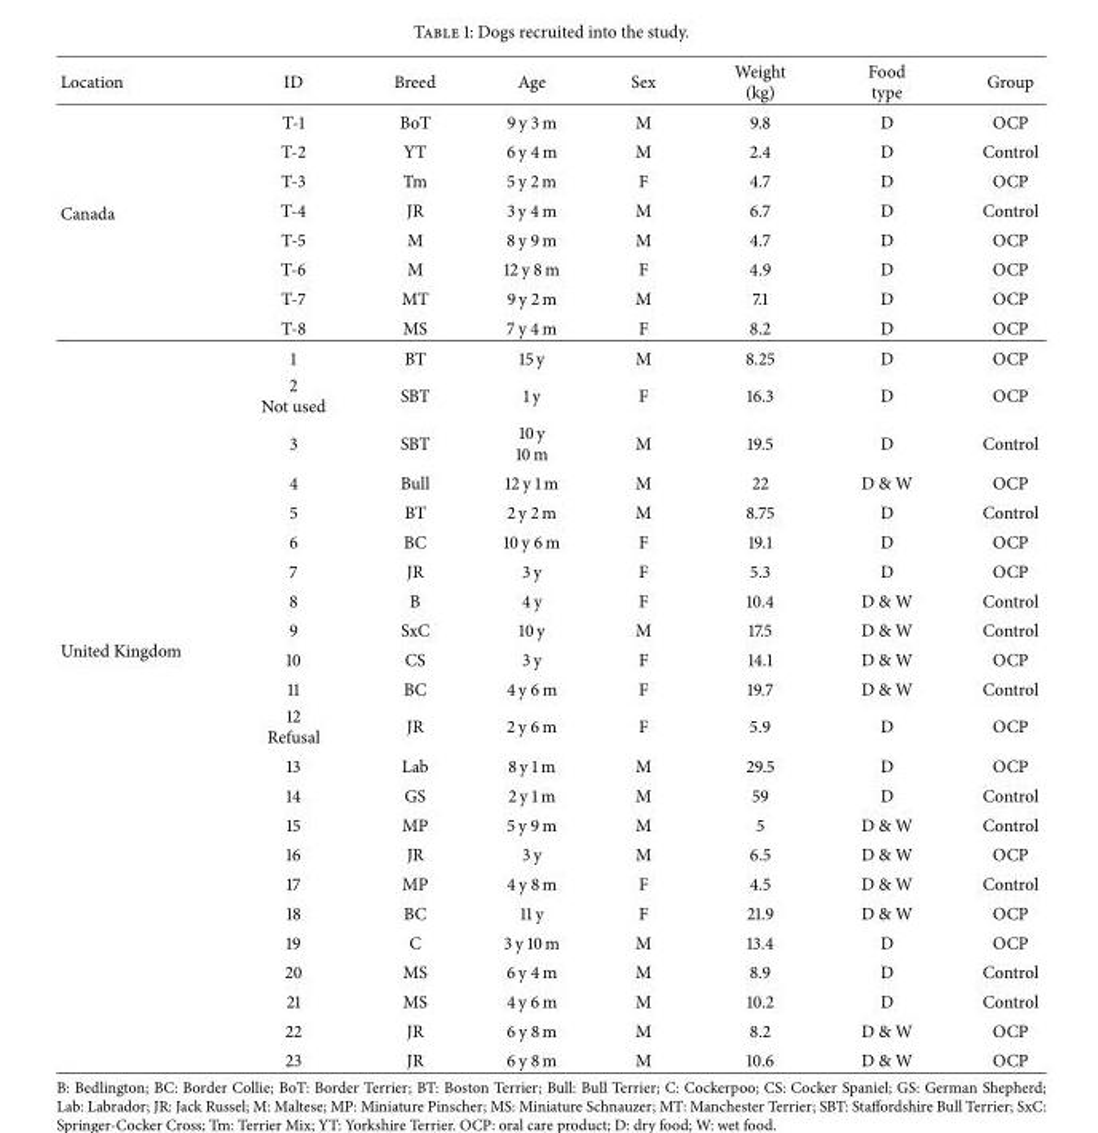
<table><thead><tr><td>Location</td><td>ID</td><td>Breed</td><td>Age</td><td>Sex</td><td>Weight (kg)</td><td>Food type</td><td>Group</td></tr></thead><tbody><tr><td rowspan="8">Canada</td><td>T-1</td><td>BoT</td><td>9 y 3 m</td><td>M</td><td>9.8</td><td>D</td><td>OCP</td></tr><tr><td>T-2</td><td>YT</td><td>6 y 4 m</td><td>M</td><td>2.4</td><td>D</td><td>Control</td></tr><tr><td>T-3</td><td>Tm</td><td>5 y 2 m</td><td>F</td><td>4.7</td><td>D</td><td>OCP</td></tr><tr><td>T-4</td><td>JR</td><td>3 y 4 m</td><td>M</td><td>6.7</td><td>D</td><td>Control</td></tr><tr><td>T-5</td><td>M</td><td>8 y 9 m</td><td>M</td><td>4.7</td><td>D</td><td>OCP</td></tr><tr><td>T-6</td><td>M</td><td>12 y 8 m</td><td>F</td><td>4.9</td><td>D</td><td>OCP</td></tr><tr><td>T-7</td><td>MT</td><td>9 y 2 m</td><td>M</td><td>7.1</td><td>D</td><td>OCP</td></tr><tr><td>T-8</td><td>MS</td><td>7 y 4 m</td><td>F</td><td>8.2</td><td>D</td><td>OCP</td></tr><tr><td rowspan="23">United Kingdom</td><td>1</td><td>BT</td><td>15 y</td><td>M</td><td>8.25</td><td>D</td><td>OCP</td></tr><tr><td>2 Not used</td><td>SBT</td><td>1 y</td><td>F</td><td>16.3</td><td>D</td><td>OCP</td></tr><tr><td>3</td><td>SBT</td><td>10 y 10 m</td><td>M</td><td>19.5</td><td>D</td><td>Control</td></tr><tr><td>4</td><td>Bull</td><td>12 y 1 m</td><td>M</td><td>22</td><td>D &amp; W</td><td>OCP</td></tr><tr><td>5</td><td>BT</td><td>2 y 2 m</td><td>M</td><td>8.75</td><td>D</td><td>Control</td></tr><tr><td>6</td><td>BC</td><td>10 y 6 m</td><td>F</td><td>19.1</td><td>D</td><td>OCP</td></tr><tr><td>7</td><td>JR</td><td>3 y</td><td>F</td><td>5.3</td><td>D</td><td>OCP</td></tr><tr><td>8</td><td>B</td><td>4 y</td><td>F</td><td>10.4</td><td>D &amp; W</td><td>Control</td></tr><tr><td>9</td><td>SxC</td><td>10 y</td><td>M</td><td>17.5</td><td>D &amp; W</td><td>Control</td></tr><tr><td>10</td><td>CS</td><td>3 y</td><td>F</td><td>14.1</td><td>D &amp; W</td><td>OCP</td></tr><tr><td>11</td><td>BC</td><td>4 y 6 m</td><td>F</td><td>19.7</td><td>D &amp; W</td><td>Control</td></tr><tr><td>12 Refusal</td><td>JR</td><td>2 y 6 m</td><td>F</td><td>5.9</td><td>D</td><td>OCP</td></tr><tr><td>13</td><td>Lab</td><td>8 y 1 m</td><td>M</td><td>29.5</td><td>D</td><td>OCP</td></tr><tr><td>14</td><td>GS</td><td>2 y 1 m</td><td>M</td><td>59</td><td>D</td><td>Control</td></tr><tr><td>15</td><td>MP</td><td>5 y 9 m</td><td>M</td><td>5</td><td>D &amp; W</td><td>Control</td></tr><tr><td>16</td><td>JR</td><td>3 y</td><td>M</td><td>6.5</td><td>D &amp; W</td><td>OCP</td></tr><tr><td>17</td><td>MP</td><td>4 y 8 m</td><td>F</td><td>4.5</td><td>D &amp; W</td><td>Control</td></tr><tr><td>18</td><td>BC</td><td>11 y</td><td>F</td><td>21.9</td><td>D &amp; W</td><td>OCP</td></tr><tr><td>19</td><td>C</td><td>3 y 10 m</td><td>M</td><td>13.4</td><td>D</td><td>OCP</td></tr><tr><td>20</td><td>MS</td><td>6 y 4 m</td><td>M</td><td>8.9</td><td>D</td><td>Control</td></tr><tr><td>21</td><td>MS</td><td>4 y 6 m</td><td>M</td><td>10.2</td><td>D</td><td>Control</td></tr><tr><td>22</td><td>JR</td><td>6 y 8 m</td><td>M</td><td>8.2</td><td>D &amp; W</td><td>OCP</td></tr><tr><td>23</td><td>JR</td><td>6 y 8 m</td><td>M</td><td>10.6</td><td>D &amp; W</td><td>OCP</td></tr></tbody></table>